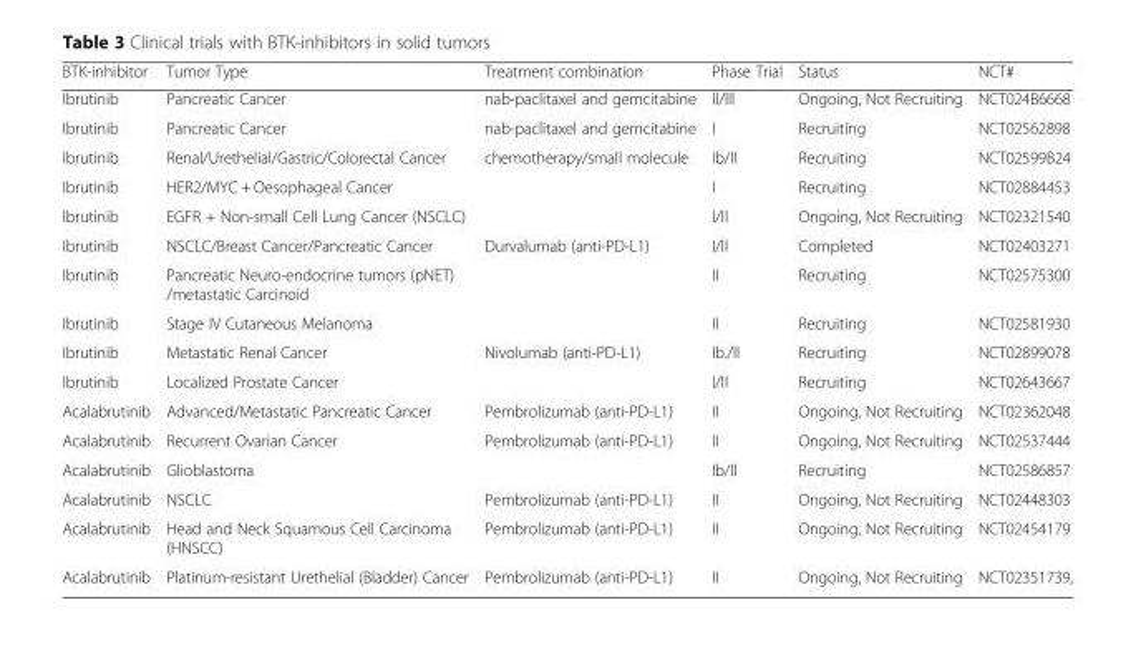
<table><thead><tr><td>BTK-inhibitor</td><td>Tumor Type</td><td>Treatment combination</td><td>Phase Trial</td><td>Status</td><td>NCT#</td></tr></thead><tbody><tr><td>Ibrutinib</td><td>Pancreatic Cancer</td><td>nab-paclitaxel and gemcitabine</td><td>ll/lll</td><td>Ongoing, Not Recruiting</td><td>NCT024B6668</td></tr><tr><td>Ibrutinib</td><td>Pancreatic Cancer</td><td>nab-paclitaxel and gemcitabine</td><td>I</td><td>Recruiting</td><td>NCT02562898</td></tr><tr><td>Ibrutinib</td><td>Renal/Urethelial/Gastric/Colorectal Cancer</td><td>chemotherapy/small molecule</td><td>Ib/II</td><td>Recruiting</td><td>NCT02599B24</td></tr><tr><td>Ibrutinib</td><td>HER2/MYC + Oesophageal Cancer</td><td></td><td>I</td><td>Recruiting</td><td>NCT02884453</td></tr><tr><td>Ibrutinib</td><td>EGFR + Non-small Cell Lung Cancer (NSCLC)</td><td></td><td>I/ll</td><td>Ongoing, Not Recruiting</td><td>NCT02321540</td></tr><tr><td>Ibrutinib</td><td>NSCLC/Breast Cancer/Pancreatic Cancer</td><td>Durvalumab (anti-PD-L1)</td><td>I/ll</td><td>Completed</td><td>NCT02403271</td></tr><tr><td>Ibrutinib</td><td>Pancreatic Neuro-endocrine tumors (pNET) /metastatic Carcinoid</td><td></td><td>II</td><td>Recruiting</td><td>NCT02575300</td></tr><tr><td>Ibrutinib</td><td>Stage IV Cutaneous Melanoma</td><td></td><td>II</td><td>Recruiting</td><td>NCT02581930</td></tr><tr><td>Ibrutinib</td><td>Metastatic Renal Cancer</td><td>Nivolumab (anti-PD-L1)</td><td>lb./ll</td><td>Recruiting</td><td>NCT02899078</td></tr><tr><td>Ibrutinib</td><td>Localized Prostate Cancer</td><td></td><td>I/II</td><td>Recruiting</td><td>NCT02643667</td></tr><tr><td>Acalabrutinib</td><td>Advanced/Metastatic Pancreatic Cancer</td><td>Pembrolizumab (anti-PD-L1)</td><td>II</td><td>Ongoing, Not Recruiting</td><td>NCT02362048</td></tr><tr><td>Acalabrutinib</td><td>Recurrent Ovarian Cancer</td><td>Pembrolizumab (anti-PD-L1)</td><td>II</td><td>Ongoing, Not Recruiting</td><td>NCT02537444</td></tr><tr><td>Acalabrutinib</td><td>Glioblastoma</td><td></td><td>lb/ll</td><td>Recruiting</td><td>NCT02586857</td></tr><tr><td>Acalabrutinib</td><td>NSCLC</td><td>Pembrolizumab (anti-PD-L1)</td><td>II</td><td>Ongoing, Not Recruiting</td><td>NCT02448303</td></tr><tr><td>Acalabrutinib</td><td>Head and Neck Squamous Cell Carcinoma (HNSCC)</td><td>Pembrolizumab (anti-PD-L1)</td><td>II</td><td>Ongoing, Not Recruiting</td><td>NCT02454179</td></tr><tr><td>Acalabrutinib</td><td>Platinum-resistant Urethelial (Bladder) Cancer</td><td>Pembrolizumab (anti-PD-L1)</td><td>II</td><td>Ongoing, Not Recruiting</td><td>NCT02351739,</td></tr></tbody></table>